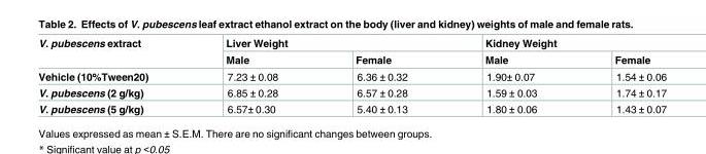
<table><thead><tr><td rowspan="2">V. pubescens extract</td><td colspan="2">Liver Weight</td><td colspan="2">Kidney Weight</td></tr><tr><td>Male</td><td>Female</td><td>Male</td><td>Female</td></tr></thead><tbody><tr><td>Vehicle (10%Tween20)</td><td>7.23 ± 0.08</td><td>6.36 ± 0.32</td><td>1.90± 0.07</td><td>1.54 ± 0.06</td></tr><tr><td>V. pubescens (2 g/kg)</td><td>6.85 ± 0.28</td><td>6.57 ± 0.28</td><td>1.59 ± 0.03</td><td>1.74 ± 0.17</td></tr><tr><td>V. pubescens (5 g/kg)</td><td>6.57± 0.30</td><td>5.40 ± 0.13</td><td>1.80 ± 0.06</td><td>1.43 ± 0.07</td></tr></tbody></table>